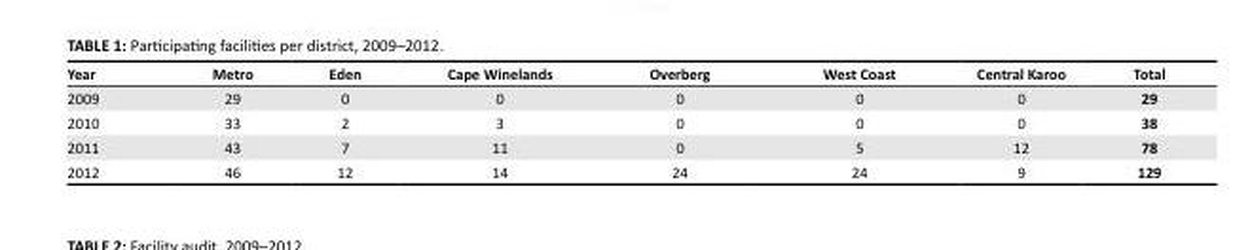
<table><thead><tr><td>Year</td><td>Metro</td><td>Eden</td><td>Cape Winelands</td><td>Overberg</td><td>West Coast</td><td>Central Karoo</td><td>Total</td></tr></thead><tbody><tr><td>2009</td><td>29</td><td>0</td><td>0</td><td>0</td><td>0</td><td>0</td><td>29</td></tr><tr><td>2010</td><td>33</td><td>2</td><td>3</td><td>0</td><td>0</td><td>0</td><td>38</td></tr><tr><td>2011</td><td>43</td><td>7</td><td>11</td><td>0</td><td>5</td><td>12</td><td>78</td></tr><tr><td>2012</td><td>46</td><td>12</td><td>14</td><td>24</td><td>24</td><td>9</td><td>129</td></tr></tbody></table>